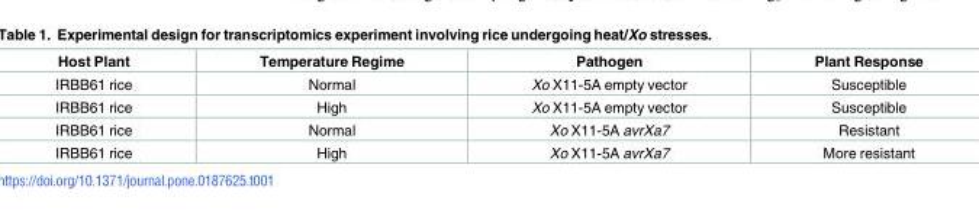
<table><thead><tr><td>Host Plant</td><td>Temperature Regime</td><td>Pathogen</td><td>Plant Response</td></tr></thead><tbody><tr><td>IRBB61 rice</td><td>Normal</td><td>Xo X11-5A empty vector</td><td>Susceptible</td></tr><tr><td>IRBB61 rice</td><td>High</td><td>Xo X11-5A empty vector</td><td>Susceptible</td></tr><tr><td>IRBB61 rice</td><td>Normal</td><td>Xo X11-5A avrXa7</td><td>Resistant</td></tr><tr><td>IRBB61 rice</td><td>High</td><td>Xo X11-5A avrXa7</td><td>More resistant</td></tr></tbody></table>